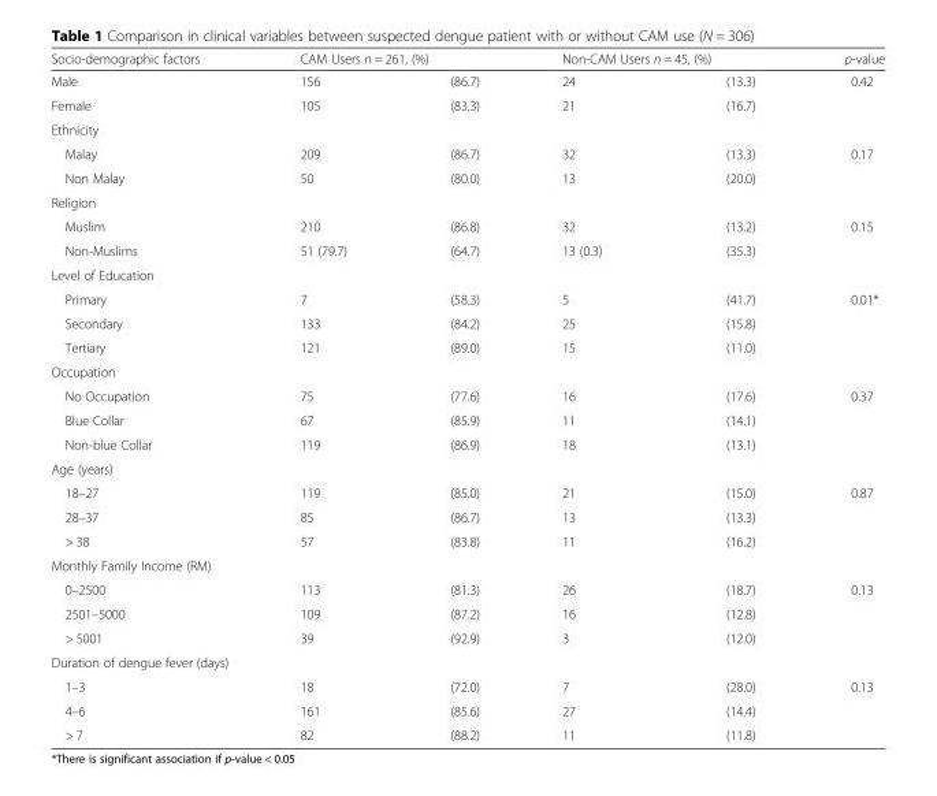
<table><thead><tr><td rowspan="2">Socio-demographic factors Male</td><td colspan="2">CAM Users n = 261, (%)</td><td colspan="2">Non-CAM Users n = 45, (%)</td><td rowspan="2">p-value 0.42</td></tr><tr><td>156</td><td>(86.7)</td><td>24</td><td>(13.3)</td></tr></thead><tbody><tr><td>Female</td><td>105</td><td>(83.3)</td><td>21</td><td>(16.7)</td><td></td></tr><tr><td colspan="6">Ethnicity</td></tr><tr><td>Malay</td><td>209</td><td>(86.7)</td><td>32</td><td>(13.3)</td><td>0.17</td></tr><tr><td>Non Malay</td><td>50</td><td>(80.0)</td><td>13</td><td>(20.0)</td><td></td></tr><tr><td colspan="6">Religion</td></tr><tr><td>Muslim</td><td>210</td><td>(86.8)</td><td>32</td><td>(13.2)</td><td>0.15</td></tr><tr><td>Non-Muslims</td><td>51 (79.7)</td><td>(64.7)</td><td>13 (0.3)</td><td>(35.3)</td><td></td></tr><tr><td colspan="6">Level of Education</td></tr><tr><td>Primary</td><td>7</td><td>(58.3)</td><td>5</td><td>(41.7)</td><td>0.01*</td></tr><tr><td>Secondary</td><td>133</td><td>(84.2)</td><td>25</td><td>(15.8)</td><td></td></tr><tr><td>Tertiary</td><td>121</td><td>(89.0)</td><td>15</td><td>(11.0)</td><td></td></tr><tr><td colspan="6">Occupation</td></tr><tr><td>No Occupation</td><td>75</td><td>(77.6)</td><td>16</td><td>(17.6)</td><td>0.37</td></tr><tr><td>Blue Collar</td><td>67</td><td>(85.9)</td><td>11</td><td>(14.1)</td><td></td></tr><tr><td>Non-blue Collar</td><td>119</td><td>(86.9)</td><td>18</td><td>(13.1)</td><td></td></tr><tr><td colspan="6">Age (years)</td></tr><tr><td>18–27</td><td>119</td><td>(85.0)</td><td>21</td><td>(15.0)</td><td>0.87</td></tr><tr><td>28–37</td><td>85</td><td>(86.7)</td><td>13</td><td>(13.3)</td><td></td></tr><tr><td>&gt; 38</td><td>57</td><td>(83.8)</td><td>11</td><td>(16.2)</td><td></td></tr><tr><td colspan="6">Monthly Family Income (RM)</td></tr><tr><td>0–2500</td><td>113</td><td>(81.3)</td><td>26</td><td>(18.7)</td><td>0.13</td></tr><tr><td>2501–5000</td><td>109</td><td>(87.2)</td><td>16</td><td>(12.8)</td><td></td></tr><tr><td>&gt; 5001</td><td>39</td><td>(92.9)</td><td>3</td><td>(12.0)</td><td></td></tr><tr><td colspan="6">Duration of dengue fever (days)</td></tr><tr><td>1–3</td><td>18</td><td>(72.0)</td><td>7</td><td>(28.0)</td><td>0.13</td></tr><tr><td>4–6</td><td>161</td><td>(85.6)</td><td>27</td><td>(14.4)</td><td></td></tr><tr><td>&gt; 7</td><td>82</td><td>(88.2)</td><td>11</td><td>(11.8)</td><td></td></tr></tbody></table>